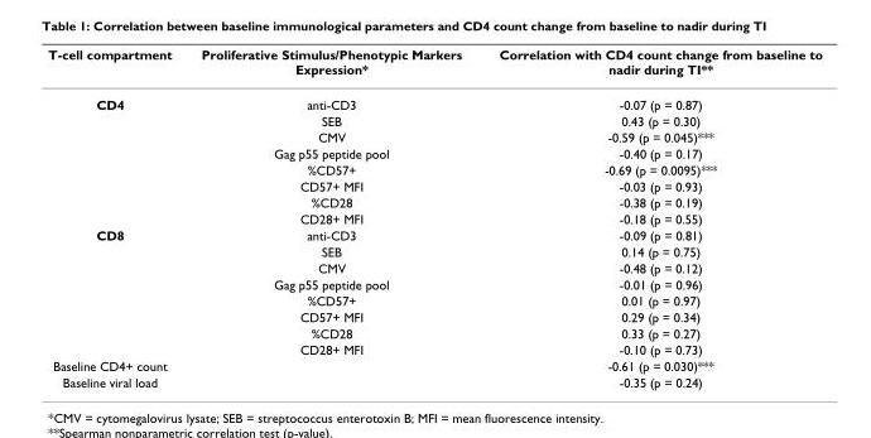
<table><thead><tr><td>T-cell compartment</td><td>Proliferative Stimulus/Phenotypic Markers Expression*</td><td>Correlation with CD4 count change from baseline to nadir during TI**</td></tr></thead><tbody><tr><td rowspan="8">CD4</td><td>anti-CD3</td><td>-0.07 (p = 0.87)</td></tr><tr><td>SEB</td><td>0.43 (p = 0.30)</td></tr><tr><td>CMV</td><td>-0.59 (p = 0.045)***</td></tr><tr><td>Gag p55 peptide pool</td><td>-0.40 (p = 0.17)</td></tr><tr><td>%CD57+</td><td>-0.69 (p = 0.0095)***</td></tr><tr><td>CD57+ MFI</td><td>-0.03 (p = 0.93)</td></tr><tr><td>%CD28</td><td>-0.38 (p = 0.19)</td></tr><tr><td>CD28+ MFI</td><td>-0.18 (p = 0.55)</td></tr><tr><td rowspan="8">CD8</td><td>anti-CD3</td><td>-0.09 (p = 0.81)</td></tr><tr><td>SEB</td><td>0.14 (p = 0.75)</td></tr><tr><td>CMV</td><td>-0.48 (p = 0.12)</td></tr><tr><td>Gag p55 peptide pool</td><td>-0.01 (p = 0.96)</td></tr><tr><td>%CD57+</td><td>0.01 (p = 0.97)</td></tr><tr><td>CD57+ MFI</td><td>0.29 (p = 0.34)</td></tr><tr><td>%CD28</td><td>0.33 (p = 0.27)</td></tr><tr><td>CD28+ MFI</td><td>-0.10 (p = 0.73)</td></tr><tr><td>Baseline CD4+ count</td><td></td><td>-0.61 (p = 0.030)***</td></tr><tr><td>Baseline viral load</td><td></td><td>-0.35 (p = 0.24)</td></tr></tbody></table>